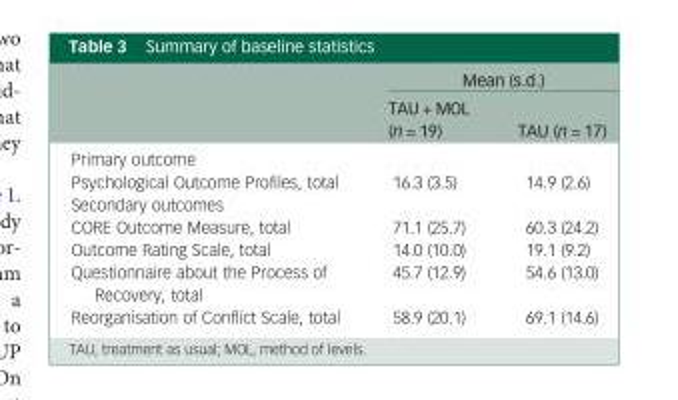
<table><thead><tr><td rowspan="2"></td><td colspan="2">Mean (s.d.)</td></tr><tr><td>TAU + MOL (n = 19)</td><td>TAU (n = 17)</td></tr></thead><tbody><tr><td colspan="3">Primary outcome</td></tr><tr><td>Psychological Outcome Profiles, total</td><td>16.3 (3.5)</td><td>14.9 (2.6)</td></tr><tr><td colspan="3">Secondary outcomes</td></tr><tr><td>CORE Outcome Measure, total</td><td>71.1 (25.7)</td><td>60.3 (24.2)</td></tr><tr><td>Outcome Rating Scale, total</td><td>14.0 (10.0)</td><td>19.1 (9.2)</td></tr><tr><td>Questionnaire about the Process of Recovery, total</td><td>45.7 (12.9)</td><td>54.6 (13.0)</td></tr><tr><td>Reorganisation of Conflict Scale, total</td><td>58.9 (20.1)</td><td>69.1 (14.6)</td></tr></tbody></table>